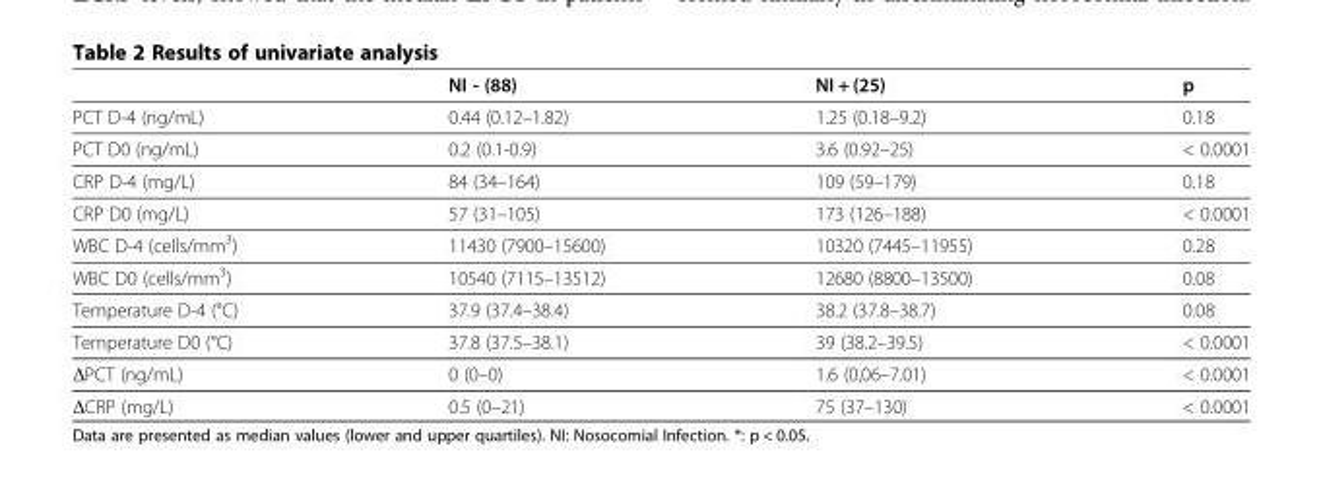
<table><thead><tr><td></td><td>NI - (88)</td><td>NI + (25)</td><td>p</td></tr></thead><tbody><tr><td>PCT D-4 (ng/mL)</td><td>0.44 (0.12–1.82)</td><td>1.25 (0.18–9.2)</td><td>0.18</td></tr><tr><td>PCT D0 (ng/mL)</td><td>0.2 (0.1-0.9)</td><td>3.6 (0.92–25)</td><td>&lt; 0.0001</td></tr><tr><td>CRP D-4 (mg/L)</td><td>84 (34–164)</td><td>109 (59–179)</td><td>0.18</td></tr><tr><td>CRP D0 (mg/L)</td><td>57 (31–105)</td><td>173 (126–188)</td><td>&lt; 0.0001</td></tr><tr><td>WBC D-4 (cells/mm<sup>3</sup>)</td><td>11430 (7900–15600)</td><td>10320 (7445–11955)</td><td>0.28</td></tr><tr><td>WBC D0 (cells/mm<sup>3</sup>)</td><td>10540 (7115–13512)</td><td>12680 (8800–13500)</td><td>0.08</td></tr><tr><td>Temperature D-4 (°C)</td><td>37.9 (37.4–38.4)</td><td>38.2 (37.8–38.7)</td><td>0.08</td></tr><tr><td>Temperature D0 (°C)</td><td>37.8 (37.5–38.1)</td><td>39 (38.2–39.5)</td><td>&lt; 0.0001</td></tr><tr><td>ΔPCT (ng/mL)</td><td>0 (0–0)</td><td>1.6 (0,06–7.01)</td><td>&lt; 0.0001</td></tr><tr><td>ΔCRP (mg/L)</td><td>0.5 (0–21)</td><td>75 (37–130)</td><td>&lt; 0.0001</td></tr></tbody></table>